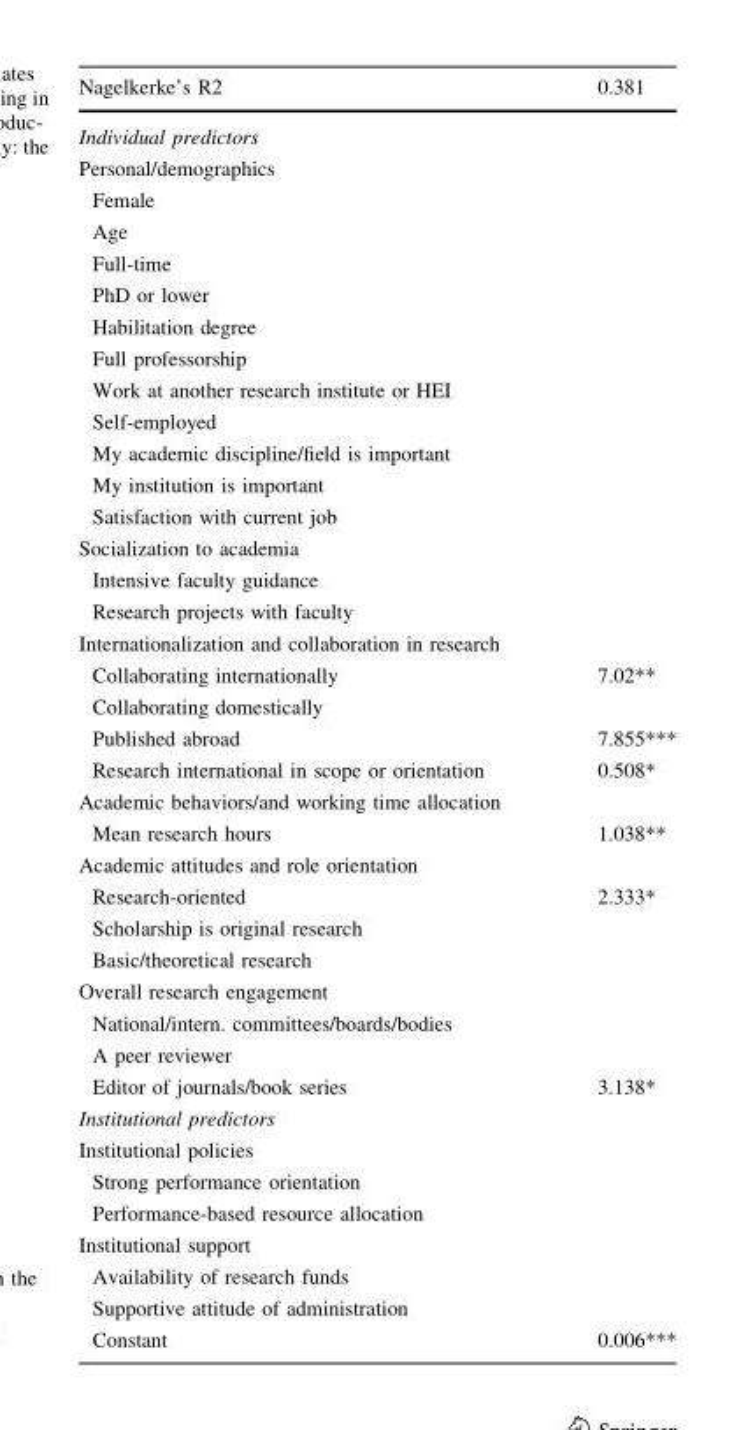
<table><thead><tr><td>Nagelkerke’s R2</td><td>0.381</td></tr></thead><tbody><tr><td colspan="2">Individual predictors</td></tr><tr><td colspan="2">Personal/demographics</td></tr><tr><td colspan="2">Female</td></tr><tr><td colspan="2">Age</td></tr><tr><td colspan="2">Full-time</td></tr><tr><td colspan="2">PhD or lower</td></tr><tr><td colspan="2">Habilitation degree</td></tr><tr><td colspan="2">Full professorship</td></tr><tr><td colspan="2">Work at another research institute or HEI</td></tr><tr><td colspan="2">Self-employed</td></tr><tr><td colspan="2">My academic discipline/field is important</td></tr><tr><td colspan="2">My institution is important</td></tr><tr><td colspan="2">Satisfaction with current job</td></tr><tr><td colspan="2">Socialization to academia</td></tr><tr><td colspan="2">Intensive faculty guidance</td></tr><tr><td colspan="2">Research projects with faculty</td></tr><tr><td colspan="2">Internationalization and collaboration in research</td></tr><tr><td>Collaborating internationally</td><td>7.02**</td></tr><tr><td colspan="2">Collaborating domestically</td></tr><tr><td>Published abroad</td><td>7.855***</td></tr><tr><td>Research international in scope or orientation</td><td>0.508*</td></tr><tr><td colspan="2">Academic behaviors/and working time allocation</td></tr><tr><td>Mean research hours</td><td>1.038**</td></tr><tr><td colspan="2">Academic attitudes and role orientation</td></tr><tr><td>Research-oriented</td><td>2.333*</td></tr><tr><td colspan="2">Scholarship is original research</td></tr><tr><td colspan="2">Basic/theoretical research</td></tr><tr><td colspan="2">Overall research engagement</td></tr><tr><td colspan="2">National/intern. committees/boards/bodies</td></tr><tr><td colspan="2">A peer reviewer</td></tr><tr><td>Editor of journals/book series</td><td>3.138*</td></tr><tr><td colspan="2">Institutional predictors</td></tr><tr><td colspan="2">Institutional policies</td></tr><tr><td colspan="2">Strong performance orientation</td></tr><tr><td colspan="2">Performance-based resource allocation</td></tr><tr><td colspan="2">Institutional support</td></tr><tr><td colspan="2">Availability of research funds</td></tr><tr><td colspan="2">Supportive attitude of administration</td></tr><tr><td>Constant</td><td>0.006***</td></tr></tbody></table>